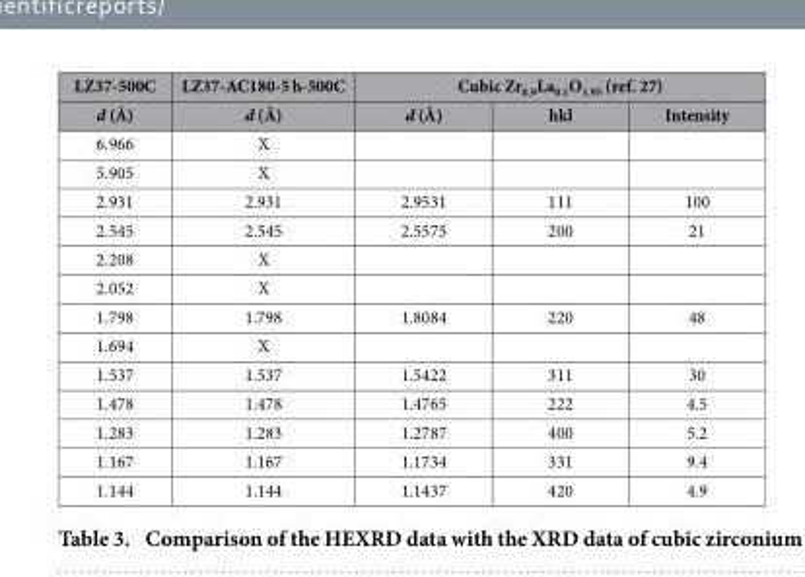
<table><thead><tr><td rowspan="2">LZ37-500C d (Å)</td><td rowspan="2">LZ37-AC180-5 h-500C d (Å)</td><td colspan="3">Cubic Zr<sub>0.9</sub>La<sub>0.1</sub>O<sub>1.95</sub> (ref. 27)</td></tr><tr><td>d (Å)</td><td>hkl</td><td>Intensity</td></tr></thead><tbody><tr><td>6.966</td><td>X</td><td></td><td></td><td></td></tr><tr><td>5.905</td><td>X</td><td></td><td></td><td></td></tr><tr><td>2.931</td><td>2.931</td><td>2.9531</td><td>111</td><td>100</td></tr><tr><td>2.545</td><td>2.545</td><td>2.5575</td><td>200</td><td>21</td></tr><tr><td>2.208</td><td>X</td><td></td><td></td><td></td></tr><tr><td>2.052</td><td>X</td><td></td><td></td><td></td></tr><tr><td>1.798</td><td>1.798</td><td>1.8084</td><td>220</td><td>48</td></tr><tr><td>1.694</td><td>X</td><td></td><td></td><td></td></tr><tr><td>1.537</td><td>1.537</td><td>1.5422</td><td>311</td><td>30</td></tr><tr><td>1.478</td><td>1.478</td><td>1.4765</td><td>222</td><td>4.5</td></tr><tr><td>1.283</td><td>1.283</td><td>1.2787</td><td>400</td><td>5.2</td></tr><tr><td>1.167</td><td>1.167</td><td>1.1734</td><td>331</td><td>9.4</td></tr><tr><td>1.144</td><td>1.144</td><td>1.1437</td><td>420</td><td>4.9</td></tr></tbody></table>